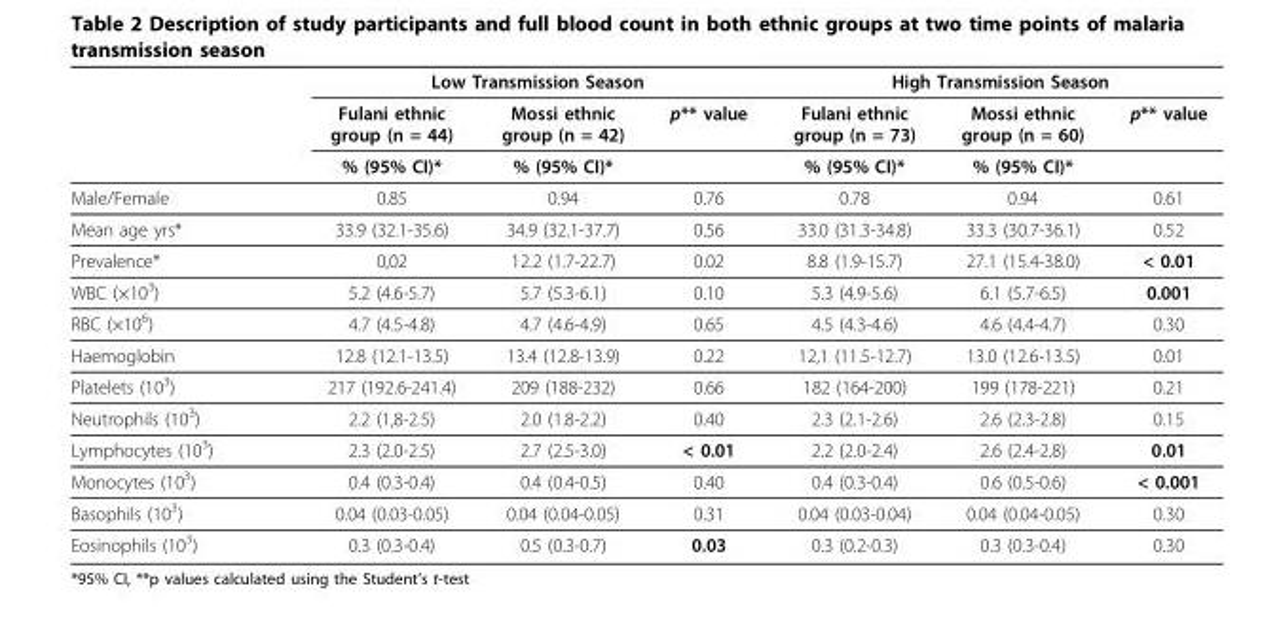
<table><thead><tr><td rowspan="3"></td><td colspan="3">Low Transmission Season</td><td colspan="3">High Transmission Season</td></tr><tr><td rowspan="2">Fulani ethnic group (n = 44) % (95% CI)*</td><td rowspan="2">Mossi ethnic group (n = 42) % (95% CI)*</td><td rowspan="2">p** value</td><td rowspan="2">Fulani ethnic group (n = 73) % (95% CI)*</td><td rowspan="2">Mossi ethnic group (n = 60) % (95% CI)*</td><td rowspan="2">p** value</td></tr><tr></tr></thead><tbody><tr><td>Male/Female</td><td>0.85</td><td>0.94</td><td>0.76</td><td>0.78</td><td>0.94</td><td>0.61</td></tr><tr><td>Mean age yrs*</td><td>33.9 (32.1-35.6)</td><td>34.9 (32.1-37.7)</td><td>0.56</td><td>33.0 (31.3-34.8)</td><td>33.3 (30.7-36.1)</td><td>0.52</td></tr><tr><td>Prevalence*</td><td>0,02</td><td>12.2 (1.7-22.7)</td><td>0.02</td><td>8.8 (1.9-15.7)</td><td>27.1 (15.4-38.0)</td><td>&lt; 0.01</td></tr><tr><td>WBC (×10<sup>3</sup>)</td><td>5.2 (4.6-5.7)</td><td>5.7 (5.3-6.1)</td><td>0.10</td><td>5.3 (4.9-5.6)</td><td>6.1 (5.7-6.5)</td><td>0.001</td></tr><tr><td>RBC (×10<sup>6</sup>)</td><td>4.7 (4.5-4.8)</td><td>4.7 (4.6-4.9)</td><td>0.65</td><td>4.5 (4.3-4.6)</td><td>4.6 (4.4-4.7)</td><td>0.30</td></tr><tr><td>Haemoglobin</td><td>12.8 (12.1-13.5)</td><td>13.4 (12.8-13.9)</td><td>0.22</td><td>12,1 (11.5-12.7)</td><td>13.0 (12.6-13.5)</td><td>0.01</td></tr><tr><td>Platelets (10<sup>3</sup>)</td><td>217 (192.6-241.4)</td><td>209 (188-232)</td><td>0.66</td><td>182 (164-200)</td><td>199 (178-221)</td><td>0.21</td></tr><tr><td>Neutrophils (10<sup>3</sup>)</td><td>2.2 (1,8-2.5)</td><td>2.0 (1.8-2.2)</td><td>0.40</td><td>2.3 (2.1-2.6)</td><td>2.6 (2.3-2.8)</td><td>0.15</td></tr><tr><td>Lymphocytes (10<sup>3</sup>)</td><td>2.3 (2.0-2.5)</td><td>2.7 (2.5-3.0)</td><td>&lt; 0.01</td><td>2.2 (2.0-2.4)</td><td>2.6 (2.4-2.8)</td><td>0.01</td></tr><tr><td>Monocytes (10<sup>3</sup>)</td><td>0.4 (0.3-0.4)</td><td>0.4 (0.4-0.5)</td><td>0.40</td><td>0.4 (0.3-0.4)</td><td>0.6 (0.5-0.6)</td><td>&lt; 0.001</td></tr><tr><td>Basophils (10<sup>3</sup>)</td><td>0.04 (0.03-0.05)</td><td>0.04 (0.04-0.05)</td><td>0.31</td><td>0.04 (0.03-0.04)</td><td>0.04 (0.04-0.05)</td><td>0.30</td></tr><tr><td>Eosinophils (10<sup>3</sup>)</td><td>0.3 (0.3-0.4)</td><td>0.5 (0.3-0.7)</td><td>0.03</td><td>0.3 (0.2-0.3)</td><td>0.3 (0.3-0.4)</td><td>0.30</td></tr></tbody></table>